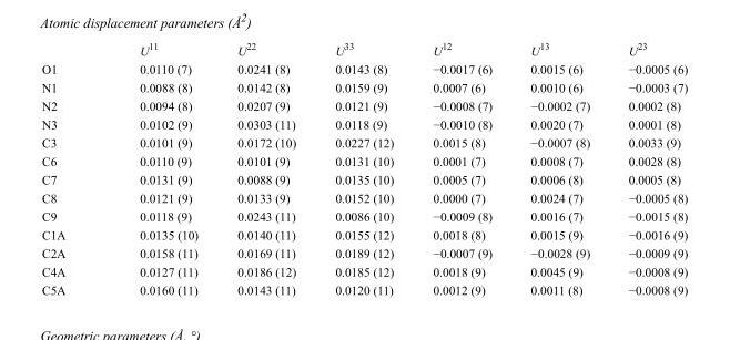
<table><thead><tr><td></td><td>U<sup>11</sup></td><td>U<sup>22</sup></td><td>U<sup>33</sup></td><td>U<sup>12</sup></td><td>U<sup>13</sup></td><td>U<sup>23</sup></td></tr></thead><tbody><tr><td>O1</td><td>0.0110 (7)</td><td>0.0241 (8)</td><td>0.0143 (8)</td><td>−0.0017 (6)</td><td>0.0015 (6)</td><td>−0.0005 (6)</td></tr><tr><td>N1</td><td>0.0088 (8)</td><td>0.0142 (8)</td><td>0.0159 (9)</td><td>0.0007 (6)</td><td>0.0010 (6)</td><td>−0.0003 (7)</td></tr><tr><td>N2</td><td>0.0094 (8)</td><td>0.0207 (9)</td><td>0.0121 (9)</td><td>−0.0008 (7)</td><td>−0.0002 (7)</td><td>0.0002 (8)</td></tr><tr><td>N3</td><td>0.0102 (9)</td><td>0.0303 (11)</td><td>0.0118 (9)</td><td>−0.0010 (8)</td><td>0.0020 (7)</td><td>0.0001 (8)</td></tr><tr><td>C3</td><td>0.0101 (9)</td><td>0.0172 (10)</td><td>0.0227 (12)</td><td>0.0015 (8)</td><td>−0.0007 (8)</td><td>0.0033 (9)</td></tr><tr><td>C6</td><td>0.0110 (9)</td><td>0.0101 (9)</td><td>0.0131 (10)</td><td>0.0001 (7)</td><td>0.0008 (7)</td><td>0.0028 (8)</td></tr><tr><td>C7</td><td>0.0131 (9)</td><td>0.0088 (9)</td><td>0.0135 (10)</td><td>0.0005 (7)</td><td>0.0006 (8)</td><td>0.0005 (8)</td></tr><tr><td>C8</td><td>0.0121 (9)</td><td>0.0133 (9)</td><td>0.0152 (10)</td><td>0.0000 (7)</td><td>0.0024 (7)</td><td>−0.0005 (8)</td></tr><tr><td>C9</td><td>0.0118 (9)</td><td>0.0243 (11)</td><td>0.0086 (10)</td><td>−0.0009 (8)</td><td>0.0016 (7)</td><td>−0.0015 (8)</td></tr><tr><td>C1A</td><td>0.0135 (10)</td><td>0.0140 (11)</td><td>0.0155 (12)</td><td>0.0018 (8)</td><td>0.0015 (9)</td><td>−0.0016 (9)</td></tr><tr><td>C2A</td><td>0.0158 (11)</td><td>0.0169 (11)</td><td>0.0189 (12)</td><td>−0.0007 (9)</td><td>−0.0028 (9)</td><td>−0.0009 (9)</td></tr><tr><td>C4A</td><td>0.0127 (11)</td><td>0.0186 (12)</td><td>0.0185 (12)</td><td>0.0018 (9)</td><td>0.0045 (9)</td><td>−0.0008 (9)</td></tr><tr><td>C5A</td><td>0.0160 (11)</td><td>0.0143 (11)</td><td>0.0120 (11)</td><td>0.0012 (9)</td><td>0.0011 (8)</td><td>−0.0008 (9)</td></tr></tbody></table>